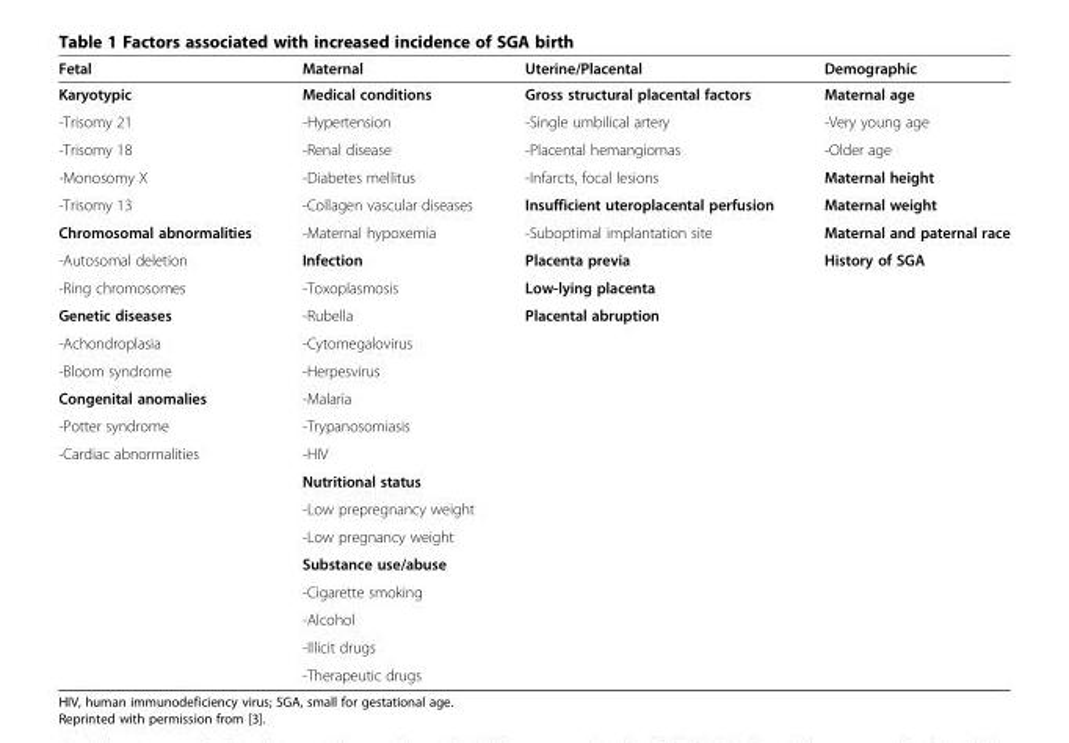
<table><thead><tr><td>Fetal</td><td>Maternal</td><td>Uterine/Placental</td><td>Demographic</td></tr></thead><tbody><tr><td>Karyotypic</td><td>Medical conditions</td><td>Gross structural placental factors</td><td>Maternal age</td></tr><tr><td>-Trisomy 21</td><td>-Hypertension</td><td>-Single umbilical artery</td><td>-Very young age</td></tr><tr><td>-Trisomy 18</td><td>-Renal disease</td><td>-Placental hemangiomas</td><td>-Older age</td></tr><tr><td>-Monosomy X</td><td>-Diabetes mellitus</td><td>-Infarcts, focal lesions</td><td>Maternal height</td></tr><tr><td>-Trisomy 13</td><td>-Collagen vascular diseases</td><td>Insufficient uteroplacental perfusion</td><td>Maternal weight</td></tr><tr><td>Chromosomal abnormalities</td><td>-Maternal hypoxemia</td><td>-Suboptimal implantation site</td><td>Maternal and paternal race</td></tr><tr><td>-Autosomal deletion</td><td>Infection</td><td>Placenta previa</td><td>History of SGA</td></tr><tr><td>-Ring chromosomes</td><td>-Toxoplasmosis</td><td>Low-lying placenta</td><td></td></tr><tr><td>Genetic diseases</td><td>-Rubella</td><td>Placental abruption</td><td></td></tr><tr><td>-Achondroplasia</td><td>-Cytomegalovirus</td><td></td><td></td></tr><tr><td>-Bloom syndrome</td><td>-Herpesvirus</td><td></td><td></td></tr><tr><td>Congenital anomalies</td><td>-Malaria</td><td></td><td></td></tr><tr><td>-Potter syndrome</td><td>-Trypanosomiasis</td><td></td><td></td></tr><tr><td rowspan="9">-Cardiac abnormalities</td><td>-HIV</td><td></td><td></td></tr><tr><td>Nutritional status</td><td></td><td></td></tr><tr><td>-Low prepregnancy weight</td><td></td><td></td></tr><tr><td>-Low pregnancy weight</td><td></td><td></td></tr><tr><td>Substance use/abuse</td><td></td><td></td></tr><tr><td>-Cigarette smoking</td><td></td><td></td></tr><tr><td>-Alcohol</td><td></td><td></td></tr><tr><td>-Illicit drugs</td><td></td><td></td></tr><tr><td>-Therapeutic drugs</td><td></td><td></td></tr></tbody></table>